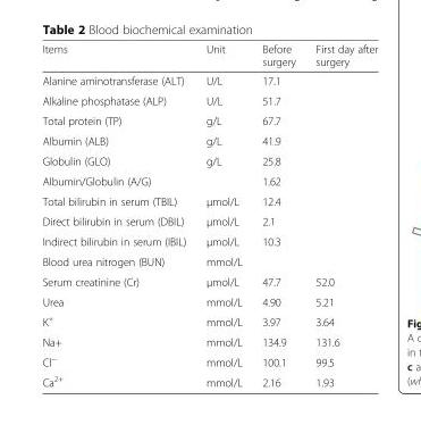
<table><thead><tr><td>Items</td><td>Unit</td><td>Before surgery</td><td>First day after surgery</td></tr></thead><tbody><tr><td>Alanine aminotransferase (ALT)</td><td>U/L</td><td>17.1</td><td></td></tr><tr><td>Alkaline phosphatase (ALP)</td><td>U/L</td><td>51.7</td><td></td></tr><tr><td>Total protein (TP)</td><td>g/L</td><td>67.7</td><td></td></tr><tr><td>Albumin (ALB)</td><td>g/L</td><td>41.9</td><td></td></tr><tr><td>Globulin (GLO)</td><td>g/L</td><td>25.8</td><td></td></tr><tr><td>Albumin/Globulin (A/G)</td><td></td><td>1.62</td><td></td></tr><tr><td>Total bilirubin in serum (TBIL)</td><td>μmol/L</td><td>12.4</td><td></td></tr><tr><td>Direct bilirubin in serum (DBIL)</td><td>μmol/L</td><td>2.1</td><td></td></tr><tr><td>Indirect bilirubin in serum (IBIL)</td><td>μmol/L</td><td>10.3</td><td></td></tr><tr><td>Blood urea nitrogen (BUN)</td><td>mmol/L</td><td></td><td></td></tr><tr><td>Serum creatinine (Cr)</td><td>μmol/L</td><td>47.7</td><td>52.0</td></tr><tr><td>Urea</td><td>mmol/L</td><td>4.90</td><td>5.21</td></tr><tr><td>K<sup>+</sup></td><td>mmol/L</td><td>3.97</td><td>3.64</td></tr><tr><td>Na+</td><td>mmol/L</td><td>134.9</td><td>131.6</td></tr><tr><td>Cl<sup>−</sup></td><td>mmol/L</td><td>100.1</td><td>99.5</td></tr><tr><td>Ca<sup>2+</sup></td><td>mmol/L</td><td>2.16</td><td>1.93</td></tr></tbody></table>